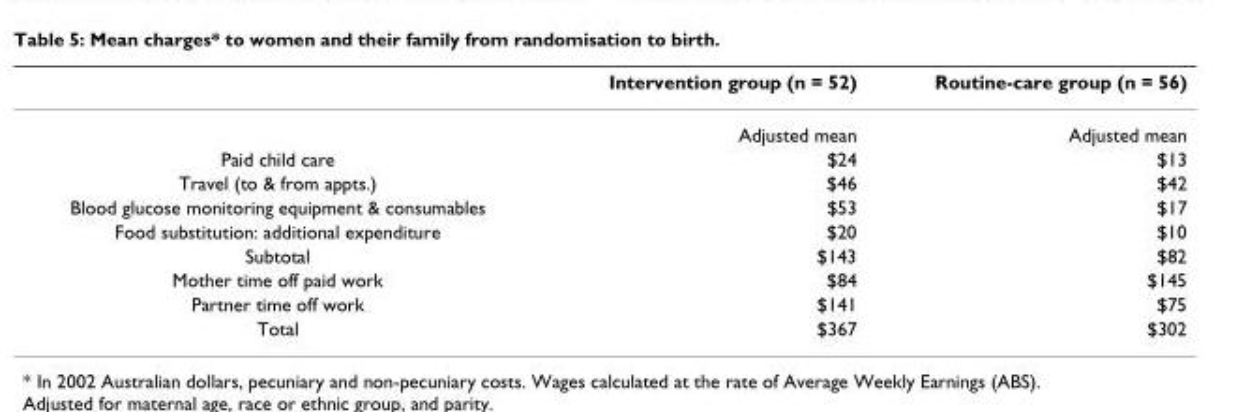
<table><thead><tr><td></td><td>Intervention group (n = 52)</td><td>Routine-care group (n = 56)</td></tr></thead><tbody><tr><td></td><td>Adjusted mean</td><td>Adjusted mean</td></tr><tr><td>Paid child care</td><td>$24</td><td>$13</td></tr><tr><td>Travel (to &amp; from appts.)</td><td>$46</td><td>$42</td></tr><tr><td>Blood glucose monitoring equipment &amp; consumables</td><td>$53</td><td>$17</td></tr><tr><td>Food substitution: additional expenditure</td><td>$20</td><td>$10</td></tr><tr><td>Subtotal</td><td>$143</td><td>$82</td></tr><tr><td>Mother time off paid work</td><td>$84</td><td>$145</td></tr><tr><td>Partner time off work</td><td>$141</td><td>$75</td></tr><tr><td>Total</td><td>$367</td><td>$302</td></tr></tbody></table>